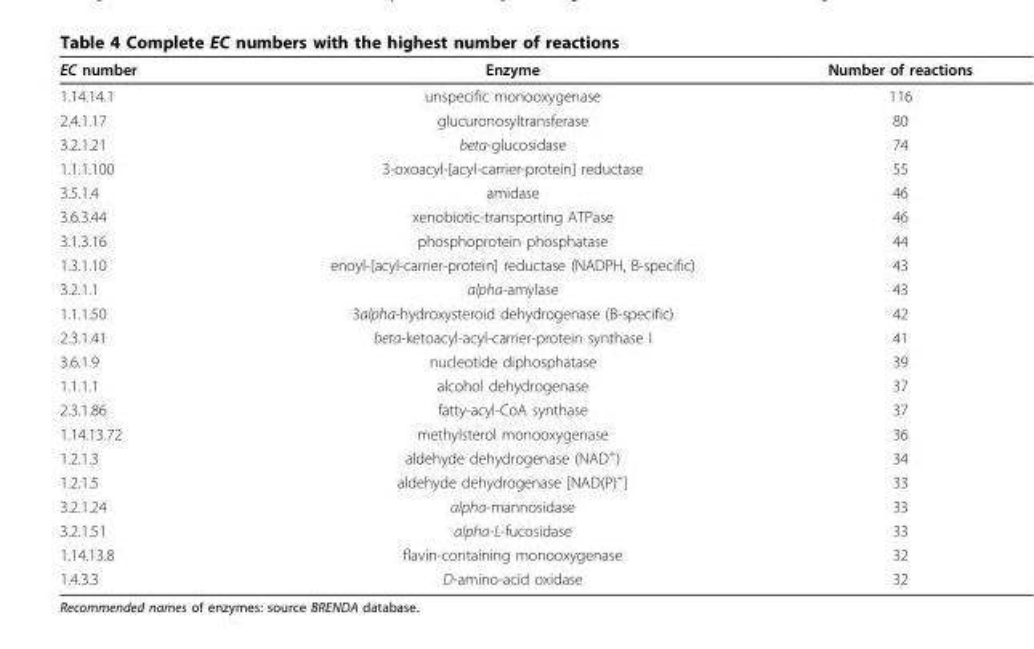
<table><thead><tr><td>EC number</td><td>Enzyme</td><td>Number of reactions</td></tr></thead><tbody><tr><td>1.14.14.1</td><td>unspecific monooxygenase</td><td>116</td></tr><tr><td>2.4.1.17</td><td>glucuronosyltransferase</td><td>80</td></tr><tr><td>3.2.1.21</td><td>beta-glucosidase</td><td>74</td></tr><tr><td>1.1.1.100</td><td>3-oxoacyl-[acyl-carrier-protein] reductase</td><td>55</td></tr><tr><td>3.5.1.4</td><td>amidase</td><td>46</td></tr><tr><td>3.6.3.44</td><td>xenobiotic-transporting ATPase</td><td>46</td></tr><tr><td>3.1.3.16</td><td>phosphoprotein phosphatase</td><td>44</td></tr><tr><td>1.3.1.10</td><td>enoyl-[acyl-carrier-protein] reductase (NADPH, B-specific)</td><td>43</td></tr><tr><td>3.2.1.1</td><td>alpha-amylase</td><td>43</td></tr><tr><td>1.1.1.50</td><td>3alpha-hydroxysteroid dehydrogenase (B-specific)</td><td>42</td></tr><tr><td>2.3.1.41</td><td>beta-ketoacyl-acyl-carrier-protein synthase I</td><td>41</td></tr><tr><td>3.6.1.9</td><td>nucleotide diphosphatase</td><td>39</td></tr><tr><td>1.1.1.1</td><td>alcohol dehydrogenase</td><td>37</td></tr><tr><td>2.3.1.86</td><td>fatty-acyl-CoA synthase</td><td>37</td></tr><tr><td>1.14.13.72</td><td>methylsterol monooxygenase</td><td>36</td></tr><tr><td>1.2.1.3</td><td>aldehyde dehydrogenase (NAD<sup>+</sup>)</td><td>34</td></tr><tr><td>1.2.1.5</td><td>aldehyde dehydrogenase [NAD(P)<sup>+</sup>]</td><td>33</td></tr><tr><td>3.2.1.24</td><td>alpha-mannosidase</td><td>33</td></tr><tr><td>3.2.1.51</td><td>alpha-L-fucosidase</td><td>33</td></tr><tr><td>1.14.13.8</td><td>flavin-containing monooxygenase</td><td>32</td></tr><tr><td>1.4.3.3</td><td>D-amino-acid oxidase</td><td>32</td></tr></tbody></table>